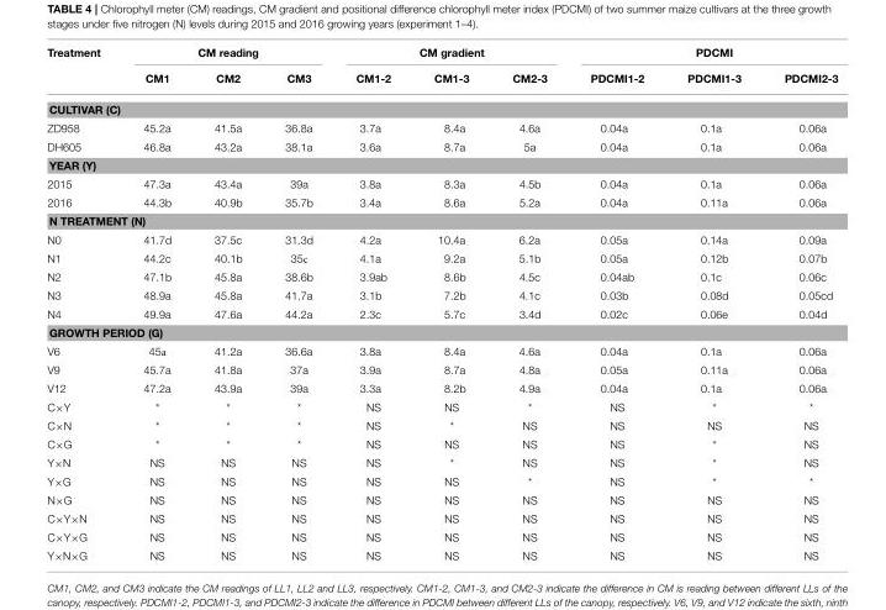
<table><thead><tr><td rowspan="2">Treatment</td><td colspan="3">CM reading</td><td colspan="3">CM gradient</td><td colspan="3">PDCMI</td></tr><tr><td>CM1</td><td>CM2</td><td>CM3</td><td>CM1-2</td><td>CM1-3</td><td>CM2-3</td><td>PDCMI1-2</td><td>PDCMI1-3</td><td>PDCMI2-3</td></tr></thead><tbody><tr><td colspan="10">CULTIVAR (C)</td></tr><tr><td>ZD958</td><td>45.2a</td><td>41.5a</td><td>36.8a</td><td>3.7a</td><td>8.4a</td><td>4.6a</td><td>0.04a</td><td>0.1a</td><td>0.06a</td></tr><tr><td>DH605</td><td>46.8a</td><td>43.2a</td><td>38.1a</td><td>3.6a</td><td>8.7a</td><td>5a</td><td>0.04a</td><td>0.1a</td><td>0.06a</td></tr><tr><td colspan="10">YEAR (Y)</td></tr><tr><td>2015</td><td>47.3a</td><td>43.4a</td><td>39a</td><td>3.8a</td><td>8.3a</td><td>4.5b</td><td>0.04a</td><td>0.1a</td><td>0.06a</td></tr><tr><td>2016</td><td>44.3b</td><td>40.9b</td><td>35.7b</td><td>3.4a</td><td>8.6a</td><td>5.2a</td><td>0.04a</td><td>0.11a</td><td>0.06a</td></tr><tr><td colspan="10">N TREATMENT (N)</td></tr><tr><td>N0</td><td>41.7d</td><td>37.5c</td><td>31.3d</td><td>4.2a</td><td>10.4a</td><td>6.2a</td><td>0.05a</td><td>0.14a</td><td>0.09a</td></tr><tr><td>N1</td><td>44.2c</td><td>40.1b</td><td>35c</td><td>4.1a</td><td>9.2a</td><td>5.1b</td><td>0.05a</td><td>0.12b</td><td>0.07b</td></tr><tr><td>N2</td><td>47.1b</td><td>45.8a</td><td>38.6b</td><td>3.9ab</td><td>8.6b</td><td>4.5c</td><td>0.04ab</td><td>0.1c</td><td>0.06c</td></tr><tr><td>N3</td><td>48.9a</td><td>45.8a</td><td>41.7a</td><td>3.1b</td><td>7.2b</td><td>4.1c</td><td>0.03b</td><td>0.08d</td><td>0.05cd</td></tr><tr><td>N4</td><td>49.9a</td><td>47.6a</td><td>44.2a</td><td>2.3c</td><td>5.7c</td><td>3.4d</td><td>0.02c</td><td>0.06e</td><td>0.04d</td></tr><tr><td colspan="10">GROWTH PERIOD (G)</td></tr><tr><td>V6</td><td>45a</td><td>41.2a</td><td>36.6a</td><td>3.8a</td><td>8.4a</td><td>4.6a</td><td>0.04a</td><td>0.1a</td><td>0.06a</td></tr><tr><td>V9</td><td>45.7a</td><td>41.8a</td><td>37a</td><td>3.9a</td><td>8.7a</td><td>4.8a</td><td>0.05a</td><td>0.11a</td><td>0.06a</td></tr><tr><td>V12</td><td>47.2a</td><td>43.9a</td><td>39a</td><td>3.3a</td><td>8.2b</td><td>4.9a</td><td>0.04a</td><td>0.1a</td><td>0.06a</td></tr><tr><td>C×Y</td><td>*</td><td>*</td><td>*</td><td>NS</td><td>NS</td><td>*</td><td>NS</td><td>*</td><td>*</td></tr><tr><td>C×N</td><td>*</td><td>*</td><td>*</td><td>NS</td><td>*</td><td>NS</td><td>NS</td><td>NS</td><td>NS</td></tr><tr><td>C×G</td><td>*</td><td>*</td><td>*</td><td>NS</td><td>NS</td><td>NS</td><td>NS</td><td>*</td><td>NS</td></tr><tr><td>Y×N</td><td>NS</td><td>NS</td><td>NS</td><td>NS</td><td>*</td><td>NS</td><td>NS</td><td>*</td><td>NS</td></tr><tr><td>Y×G</td><td>NS</td><td>NS</td><td>NS</td><td>NS</td><td>NS</td><td>*</td><td>NS</td><td>*</td><td>*</td></tr><tr><td>N×G</td><td>NS</td><td>NS</td><td>NS</td><td>NS</td><td>NS</td><td>NS</td><td>NS</td><td>NS</td><td>NS</td></tr><tr><td>C×Y×N</td><td>NS</td><td>NS</td><td>NS</td><td>NS</td><td>NS</td><td>NS</td><td>NS</td><td>NS</td><td>NS</td></tr><tr><td>C×Y×G</td><td>NS</td><td>NS</td><td>NS</td><td>NS</td><td>NS</td><td>NS</td><td>NS</td><td>NS</td><td>NS</td></tr><tr><td>Y×N×G</td><td>NS</td><td>NS</td><td>NS</td><td>NS</td><td>NS</td><td>NS</td><td>NS</td><td>NS</td><td>NS</td></tr></tbody></table>